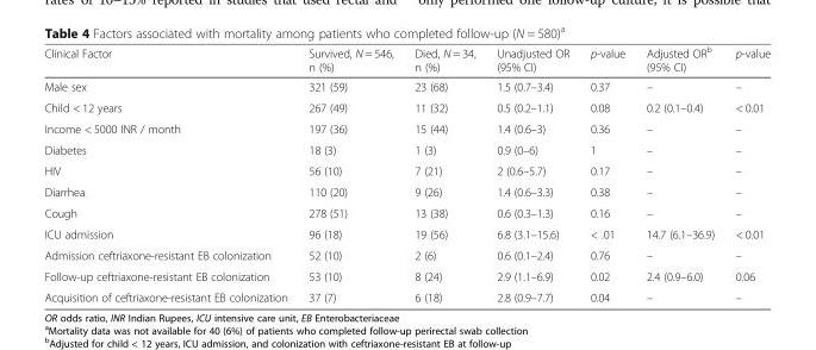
<table><thead><tr><td>Clinical Factor</td><td>Survived, N = 546, n (%)</td><td>Died, N = 34, n (%)</td><td>Unadjusted OR (95% CI)</td><td>p-value</td><td>Adjusted OR<sup>b</sup> (95% CI)</td><td>p-value</td></tr></thead><tbody><tr><td>Male sex</td><td>321 (59)</td><td>23 (68)</td><td>1.5 (0.7–3.4)</td><td>0.37</td><td>–</td><td>–</td></tr><tr><td>Child &lt; 12 years</td><td>267 (49)</td><td>11 (32)</td><td>0.5 (0.2–1.1)</td><td>0.08</td><td>0.2 (0.1–0.4)</td><td>&lt; 0.01</td></tr><tr><td>Income &lt; 5000 INR / month</td><td>197 (36)</td><td>15 (44)</td><td>1.4 (0.6–3)</td><td>0.36</td><td>–</td><td>–</td></tr><tr><td>Diabetes</td><td>18 (3)</td><td>1 (3)</td><td>0.9 (0–6)</td><td>1</td><td>–</td><td>–</td></tr><tr><td>HIV</td><td>56 (10)</td><td>7 (21)</td><td>2 (0.6–5.7)</td><td>0.17</td><td>–</td><td>–</td></tr><tr><td>Diarrhea</td><td>110 (20)</td><td>9 (26)</td><td>1.4 (0.6–3.3)</td><td>0.38</td><td>–</td><td>–</td></tr><tr><td>Cough</td><td>278 (51)</td><td>13 (38)</td><td>0.6 (0.3–1.3)</td><td>0.16</td><td>–</td><td>–</td></tr><tr><td>ICU admission</td><td>96 (18)</td><td>19 (56)</td><td>6.8 (3.1–15.6)</td><td>&lt; .01</td><td>14.7 (6.1–36.9)</td><td>&lt; 0.01</td></tr><tr><td>Admission ceftriaxone-resistant EB colonization</td><td>52 (10)</td><td>2 (6)</td><td>0.6 (0.1–2.4)</td><td>0.76</td><td>–</td><td>–</td></tr><tr><td>Follow-up ceftriaxone-resistant EB colonization</td><td>53 (10)</td><td>8 (24)</td><td>2.9 (1.1–6.9)</td><td>0.02</td><td>2.4 (0.9–6.0)</td><td>0.06</td></tr><tr><td>Acquisition of ceftriaxone-resistant EB colonization</td><td>37 (7)</td><td>6 (18)</td><td>2.8 (0.9–7.7)</td><td>0.04</td><td>–</td><td>–</td></tr></tbody></table>